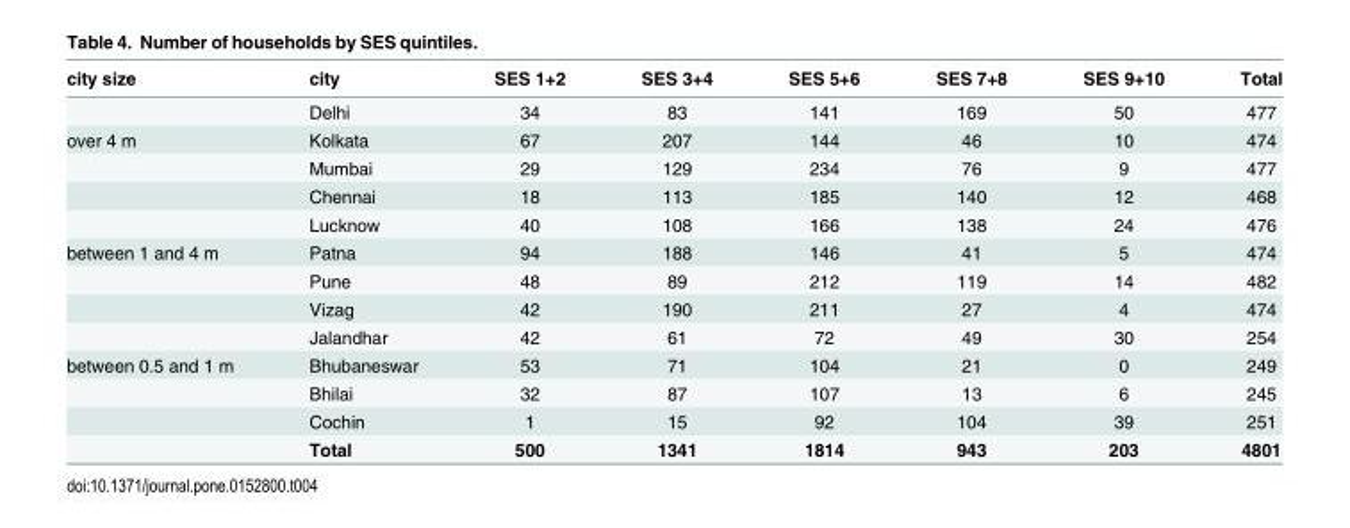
<table><thead><tr><td>city size</td><td>city</td><td>SES 1+2</td><td>SES 3+4</td><td>SES 5+6</td><td>SES 7+8</td><td>SES 9+10</td><td>Total</td></tr></thead><tbody><tr><td></td><td>Delhi</td><td>34</td><td>83</td><td>141</td><td>169</td><td>50</td><td>477</td></tr><tr><td rowspan="4">over 4 m</td><td>Kolkata</td><td>67</td><td>207</td><td>144</td><td>46</td><td>10</td><td>474</td></tr><tr><td>Mumbai</td><td>29</td><td>129</td><td>234</td><td>76</td><td>9</td><td>477</td></tr><tr><td>Chennai</td><td>18</td><td>113</td><td>185</td><td>140</td><td>12</td><td>468</td></tr><tr><td>Lucknow</td><td>40</td><td>108</td><td>166</td><td>138</td><td>24</td><td>476</td></tr><tr><td rowspan="4">between 1 and 4 m</td><td>Patna</td><td>94</td><td>188</td><td>146</td><td>41</td><td>5</td><td>474</td></tr><tr><td>Pune</td><td>48</td><td>89</td><td>212</td><td>119</td><td>14</td><td>482</td></tr><tr><td>Vizag</td><td>42</td><td>190</td><td>211</td><td>27</td><td>4</td><td>474</td></tr><tr><td>Jalandhar</td><td>42</td><td>61</td><td>72</td><td>49</td><td>30</td><td>254</td></tr><tr><td rowspan="4">between 0.5 and 1 m</td><td>Bhubaneswar</td><td>53</td><td>71</td><td>104</td><td>21</td><td>0</td><td>249</td></tr><tr><td>Bhilai</td><td>32</td><td>87</td><td>107</td><td>13</td><td>6</td><td>245</td></tr><tr><td>Cochin</td><td>1</td><td>15</td><td>92</td><td>104</td><td>39</td><td>251</td></tr><tr><td>Total</td><td>500</td><td>1341</td><td>1814</td><td>943</td><td>203</td><td>4801</td></tr></tbody></table>